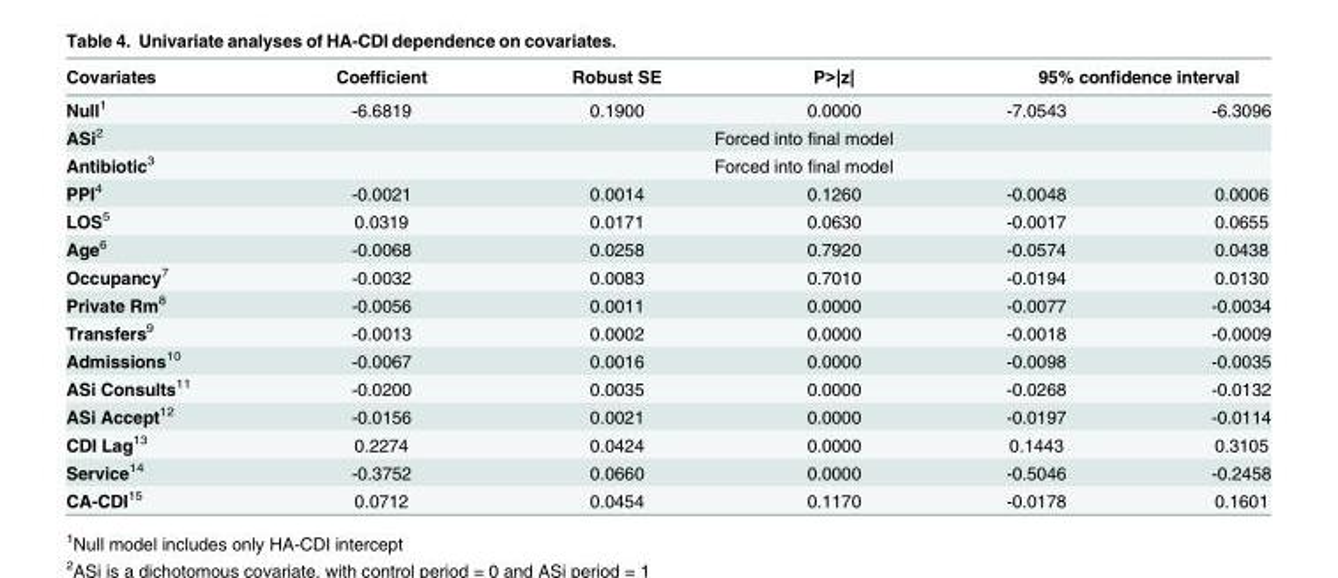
<table><thead><tr><td rowspan="2">Covariates Null<sup>1</sup></td><td rowspan="2">Coefficient -6.6819</td><td rowspan="2">Robust SE 0.1900</td><td rowspan="2">P&gt;|z| 0.0000</td><td colspan="2">95% confidence interval</td></tr><tr><td>-7.0543</td><td>-6.3096</td></tr></thead><tbody><tr><td>ASi<sup>2</sup></td><td colspan="5">Forced into final model</td></tr><tr><td>Antibiotic<sup>3</sup></td><td colspan="5">Forced into final model</td></tr><tr><td>PPI<sup>4</sup></td><td>-0.0021</td><td>0.0014</td><td>0.1260</td><td>-0.0048</td><td>0.0006</td></tr><tr><td>LOS<sup>5</sup></td><td>0.0319</td><td>0.0171</td><td>0.0630</td><td>-0.0017</td><td>0.0655</td></tr><tr><td>Age<sup>6</sup></td><td>-0.0068</td><td>0.0258</td><td>0.7920</td><td>-0.0574</td><td>0.0438</td></tr><tr><td>Occupancy<sup>7</sup></td><td>-0.0032</td><td>0.0083</td><td>0.7010</td><td>-0.0194</td><td>0.0130</td></tr><tr><td>Private Rm<sup>8</sup></td><td>-0.0056</td><td>0.0011</td><td>0.0000</td><td>-0.0077</td><td>-0.0034</td></tr><tr><td>Transfers<sup>9</sup></td><td>-0.0013</td><td>0.0002</td><td>0.0000</td><td>-0.0018</td><td>-0.0009</td></tr><tr><td>Admissions<sup>10</sup></td><td>-0.0067</td><td>0.0016</td><td>0.0000</td><td>-0.0098</td><td>-0.0035</td></tr><tr><td>ASi Consults<sup>11</sup></td><td>-0.0200</td><td>0.0035</td><td>0.0000</td><td>-0.0268</td><td>-0.0132</td></tr><tr><td>ASi Accept<sup>12</sup></td><td>-0.0156</td><td>0.0021</td><td>0.0000</td><td>-0.0197</td><td>-0.0114</td></tr><tr><td>CDI Lag<sup>13</sup></td><td>0.2274</td><td>0.0424</td><td>0.0000</td><td>0.1443</td><td>0.3105</td></tr><tr><td>Service<sup>14</sup></td><td>-0.3752</td><td>0.0660</td><td>0.0000</td><td>-0.5046</td><td>-0.2458</td></tr><tr><td>CA-CDI<sup>15</sup></td><td>0.0712</td><td>0.0454</td><td>0.1170</td><td>-0.0178</td><td>0.1601</td></tr></tbody></table>